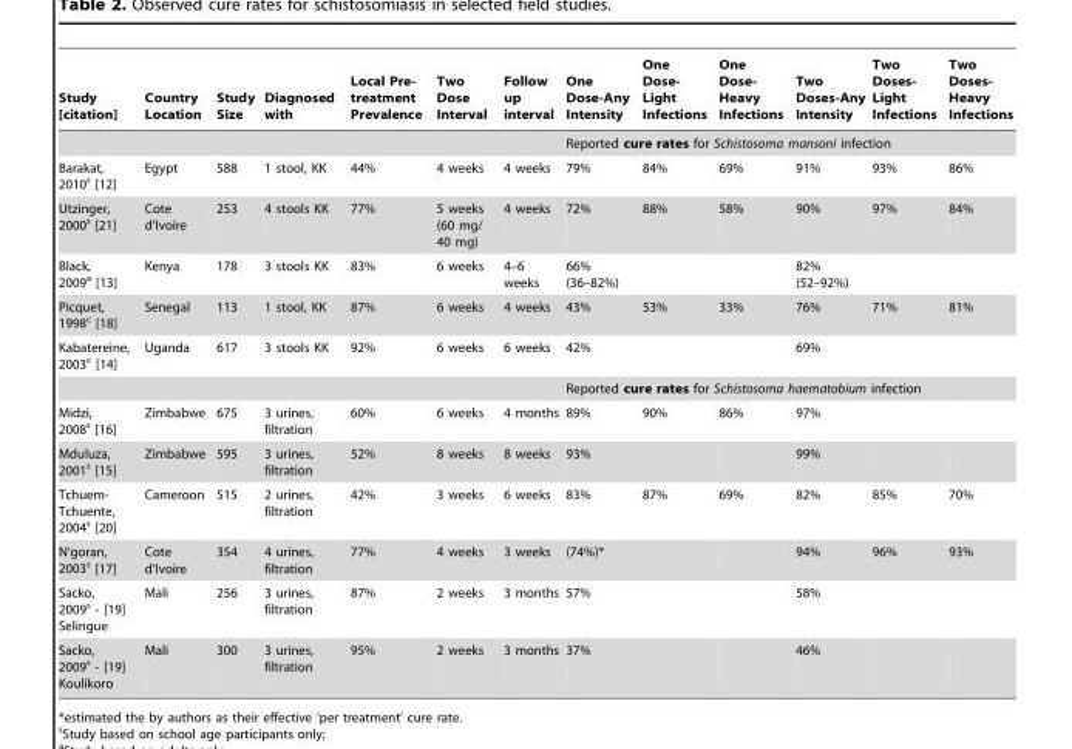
<table><thead><tr><td>Study [citation]</td><td>Country Location</td><td>Study Size</td><td>Diagnosed with</td><td>Local Pre- treatment Prevalence</td><td>Two Dose Interval</td><td>Follow up interval</td><td>One Dose-Any Intensity</td><td>One Dose- Light Infections</td><td>One Dose- Heavy Infections</td><td>Two Doses-Any Intensity</td><td>Two Doses- Light Infections</td><td>Two Doses- Heavy Infections</td></tr></thead><tbody><tr><td colspan="7"></td><td colspan="6">Reported cure rates for Schistosoma mansoni infection</td></tr><tr><td>Barakat, 2010<sup>s</sup> [12]</td><td>Egypt</td><td>588</td><td>1 stool, KK</td><td>44%</td><td>4 weeks</td><td>4 weeks</td><td>79%</td><td>84%</td><td>69%</td><td>91%</td><td>93%</td><td>86%</td></tr><tr><td>Utzinger, 2000<sup>s</sup> [21]</td><td>Cote d’Ivoire</td><td>253</td><td>4 stools KK</td><td>77%</td><td>5 weeks (60 mg/ 40 mg)</td><td>4 weeks</td><td>72%</td><td>88%</td><td>58%</td><td>90%</td><td>97%</td><td>84%</td></tr><tr><td>Black, 2009<sup>a</sup> [13]</td><td>Kenya</td><td>178</td><td>3 stools KK</td><td>83%</td><td>6 weeks</td><td>4–6 weeks</td><td>66% (36–82%)</td><td></td><td></td><td>82% (52–92%)</td><td></td><td></td></tr><tr><td>Picquet, 1998<sup>c</sup> [18]</td><td>Senegal</td><td>113</td><td>1 stool, KK</td><td>87%</td><td>6 weeks</td><td>4 weeks</td><td>43%</td><td>53%</td><td>33%</td><td>76%</td><td>71%</td><td>81%</td></tr><tr><td>Kabatereine, 2003<sup>c</sup> [14]</td><td>Uganda</td><td>617</td><td>3 stools KK</td><td>92%</td><td>6 weeks</td><td>6 weeks</td><td>42%</td><td></td><td></td><td>69%</td><td></td><td></td></tr><tr><td colspan="7"></td><td colspan="6">Reported cure rates for Schistosoma haematobium infection</td></tr><tr><td>Midzi, 2008<sup>s</sup> [16]</td><td>Zimbabwe</td><td>675</td><td>3 urines, filtration</td><td>60%</td><td>6 weeks</td><td>4 months</td><td>89%</td><td>90%</td><td>86%</td><td>97%</td><td></td><td></td></tr><tr><td>Mduluza, 2001<sup>s</sup> [15]</td><td>Zimbabwe</td><td>595</td><td>3 urines, filtration</td><td>52%</td><td>8 weeks</td><td>8 weeks</td><td>93%</td><td></td><td></td><td>99%</td><td></td><td></td></tr><tr><td>Tchuem- Tchuente, 2004<sup>s</sup> [20]</td><td>Cameroon</td><td>515</td><td>2 urines, filtration</td><td>42%</td><td>3 weeks</td><td>6 weeks</td><td>83%</td><td>87%</td><td>69%</td><td>82%</td><td>85%</td><td>70%</td></tr><tr><td>N’goran, 2003<sup>s</sup> [17]</td><td>Cote d’Ivoire</td><td>354</td><td>4 urines, filtration</td><td>77%</td><td>4 weeks</td><td>3 weeks</td><td>(74%)*</td><td></td><td></td><td>94%</td><td>96%</td><td>93%</td></tr><tr><td>Sacko, 2009<sup>s</sup> - [19] Selingue</td><td>Mali</td><td>256</td><td>3 urines, filtration</td><td>87%</td><td>2 weeks</td><td>3 months</td><td>57%</td><td></td><td></td><td>58%</td><td></td><td></td></tr><tr><td>Sacko, 2009<sup>s</sup> - [19] Koulikoro</td><td>Mali</td><td>300</td><td>3 urines, filtration</td><td>95%</td><td>2 weeks</td><td>3 months</td><td>37%</td><td></td><td></td><td>46%</td><td></td><td></td></tr></tbody></table>